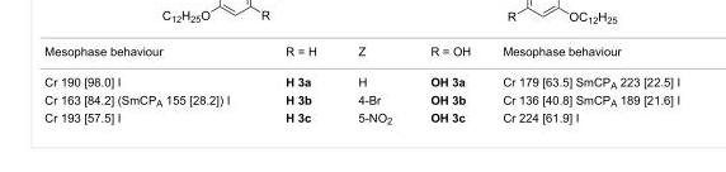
<table><tbody><tr><td>Mesophase behaviour</td><td>R = H</td><td>Z</td><td>R = OH</td><td>Mesophase behaviour</td></tr><tr><td>Cr 190 [98.0] I</td><td>H 3a</td><td>H</td><td>OH 3a</td><td>Cr 179 [63.5] SmCP<sub>A</sub> 223 [22.5] I</td></tr><tr><td>Cr 163 [84.2] (SmCP<sub>A</sub> 155 [28.2]) I</td><td>H 3b</td><td>4-Br</td><td>OH 3b</td><td>Cr 136 [40.8] SmCP<sub>A</sub> 189 [21.6] I</td></tr><tr><td>Cr 193 [57.5] I</td><td>H 3c</td><td>5-NO<sub>2</sub></td><td>OH 3c</td><td>Cr 224 [61.9] I</td></tr></tbody></table>